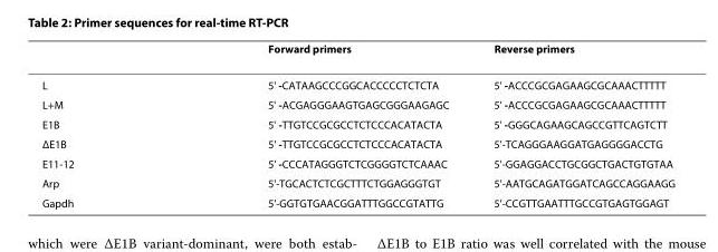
<table><thead><tr><td></td><td>Forward primers</td><td>Reverse primers</td></tr></thead><tbody><tr><td>L</td><td>5&#x27; -CATAAGCCCGGCACCCCCTCTCTA</td><td>5&#x27; -ACCCGCGAGAAGCGCAAACTTTTT</td></tr><tr><td>L+M</td><td>5&#x27; -ACGAGGGAAGTGAGCGGGAAGAGC</td><td>5&#x27; -ACCCGCGAGAAGCGCAAACTTTTT</td></tr><tr><td>E1B</td><td>5&#x27; -TTGTCCGCGCCTCTCCCACATACTA</td><td>5&#x27; -GGGCAGAAGCAGCCGTTCAGTCTT</td></tr><tr><td>ΔE1B</td><td>5&#x27; -TTGTCCGCGCCTCTCCCACATACTA</td><td>5&#x27;-TCAGGGAAGGATGAGGGGACCTG</td></tr><tr><td>E11-12</td><td>5&#x27; -CCCATAGGGTCTCGGGGTCTCAAAC</td><td>5&#x27;-GGAGGACCTGCGGCTGACTGTGTAA</td></tr><tr><td>Arp</td><td>5&#x27;-TGCACTCTCGCTTTCTGGAGGGTGT</td><td>5&#x27;-AATGCAGATGGATCAGCCAGGAAGG</td></tr><tr><td>Gapdh</td><td>5&#x27;-GGTGTGAACGGATTTGGCCGTATTG</td><td>5&#x27;-CCGTTGAATTTGCCGTGAGTGGAGT</td></tr></tbody></table>